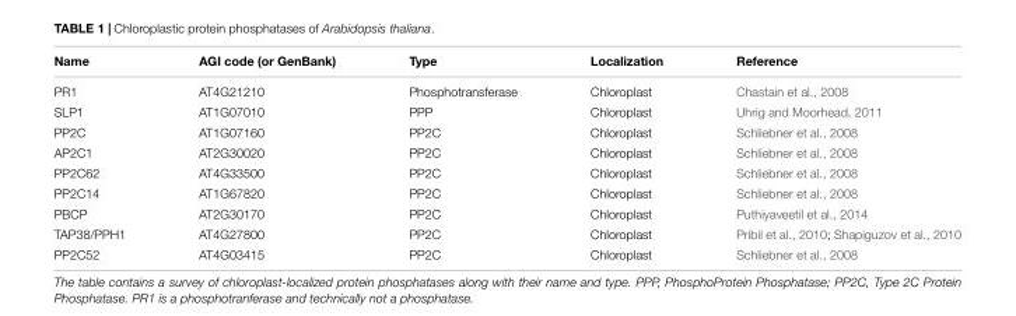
<table><thead><tr><td>Name</td><td>AGI code (or GenBank)</td><td>Type</td><td>Localization</td><td>Reference</td></tr></thead><tbody><tr><td>PR1</td><td>AT4G21210</td><td>Phosphotransferase</td><td>Chloroplast</td><td>Chastain et al., 2008</td></tr><tr><td>SLP1</td><td>AT1G07010</td><td>PPP</td><td>Chloroplast</td><td>Uhrig and Moorhead, 2011</td></tr><tr><td>PP2C</td><td>AT1G07160</td><td>PP2C</td><td>Chloroplast</td><td>Schliebner et al., 2008</td></tr><tr><td>AP2C1</td><td>AT2G30020</td><td>PP2C</td><td>Chloroplast</td><td>Schliebner et al., 2008</td></tr><tr><td>PP2C62</td><td>AT4G33500</td><td>PP2C</td><td>Chloroplast</td><td>Schliebner et al., 2008</td></tr><tr><td>PP2C14</td><td>AT1G67820</td><td>PP2C</td><td>Chloroplast</td><td>Schliebner et al., 2008</td></tr><tr><td>PBCP</td><td>AT2G30170</td><td>PP2C</td><td>Chloroplast</td><td>Puthiyaveetil et al., 2014</td></tr><tr><td>TAP38/PPH1</td><td>AT4G27800</td><td>PP2C</td><td>Chloroplast</td><td>Pribil et al., 2010; Shapiguzov et al., 2010</td></tr><tr><td>PP2C52</td><td>AT4G03415</td><td>PP2C</td><td>Chloroplast</td><td>Schliebner et al., 2008</td></tr></tbody></table>